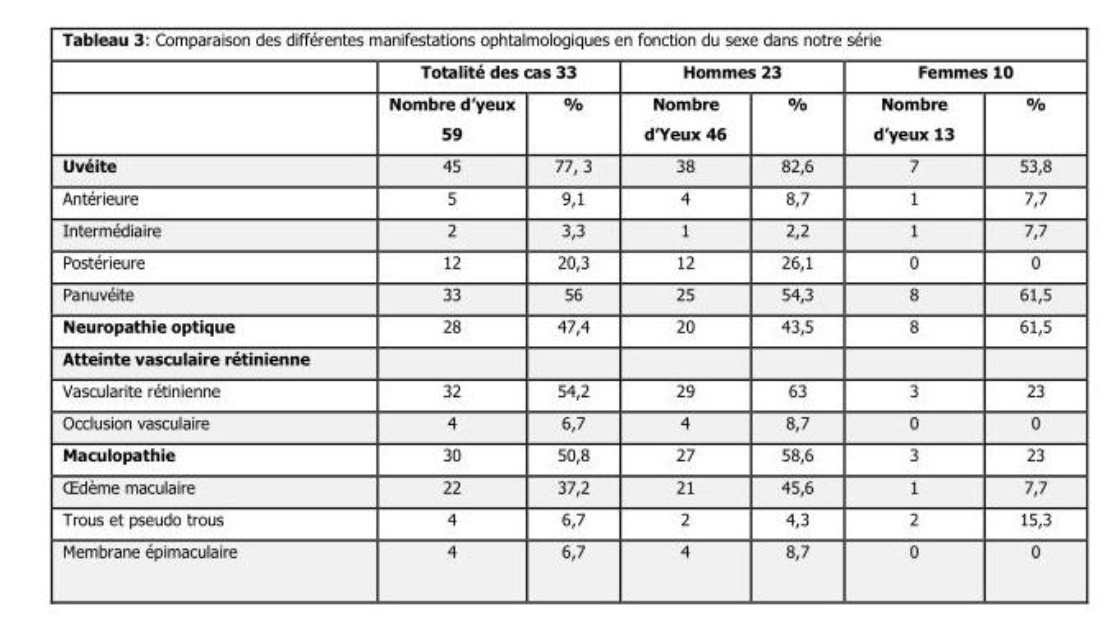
<table><thead><tr><td rowspan="2"></td><td colspan="2">Totalité des cas 33</td><td colspan="2">Hommes 23</td><td colspan="2">Femmes 10</td></tr><tr><td>Nombre d’yeux 59</td><td>%</td><td>Nombre d’Yeux 46</td><td>%</td><td>Nombre d’yeux 13</td><td>%</td></tr></thead><tbody><tr><td>Uvéite</td><td>45</td><td>77, 3</td><td>38</td><td>82,6</td><td>7</td><td>53,8</td></tr><tr><td>Antérieure</td><td>5</td><td>9,1</td><td>4</td><td>8,7</td><td>1</td><td>7,7</td></tr><tr><td>Intermédiaire</td><td>2</td><td>3,3</td><td>1</td><td>2,2</td><td>1</td><td>7,7</td></tr><tr><td>Postérieure</td><td>12</td><td>20,3</td><td>12</td><td>26,1</td><td>0</td><td>0</td></tr><tr><td>Panuvéite</td><td>33</td><td>56</td><td>25</td><td>54,3</td><td>8</td><td>61,5</td></tr><tr><td>Neuropathie optique</td><td>28</td><td>47,4</td><td>20</td><td>43,5</td><td>8</td><td>61,5</td></tr><tr><td colspan="7">Atteinte vasculaire rétinienne</td></tr><tr><td>Vascularite rétinienne</td><td>32</td><td>54,2</td><td>29</td><td>63</td><td>3</td><td>23</td></tr><tr><td>Occlusion vasculaire</td><td>4</td><td>6,7</td><td>4</td><td>8,7</td><td>0</td><td>0</td></tr><tr><td>Maculopathie</td><td>30</td><td>50,8</td><td>27</td><td>58,6</td><td>3</td><td>23</td></tr><tr><td>Œdème maculaire</td><td>22</td><td>37,2</td><td>21</td><td>45,6</td><td>1</td><td>7,7</td></tr><tr><td>Trous et pseudo trous</td><td>4</td><td>6,7</td><td>2</td><td>4,3</td><td>2</td><td>15,3</td></tr><tr><td>Membrane épimaculaire</td><td>4</td><td>6,7</td><td>4</td><td>8,7</td><td>0</td><td>0</td></tr></tbody></table>